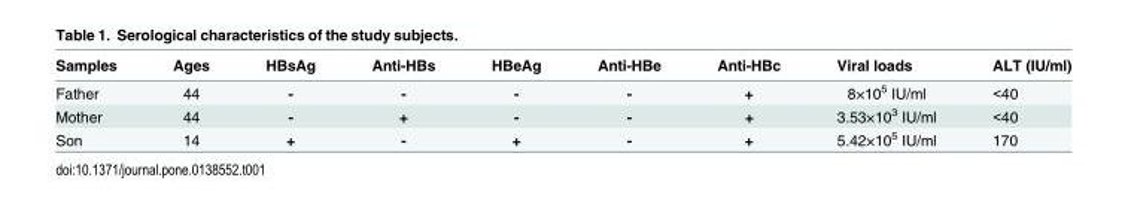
<table><thead><tr><td>Samples</td><td>Ages</td><td>HBsAg</td><td>Anti-HBs</td><td>HBeAg</td><td>Anti-HBe</td><td>Anti-HBc</td><td>Viral loads</td><td>ALT (IU/ml)</td></tr></thead><tbody><tr><td>Father</td><td>44</td><td>-</td><td>-</td><td>-</td><td>-</td><td>+</td><td>8×10<sup>5</sup> IU/ml</td><td>&lt;40</td></tr><tr><td>Mother</td><td>44</td><td>-</td><td>+</td><td>-</td><td>-</td><td>+</td><td>3.53×10<sup>3</sup> IU/ml</td><td>&lt;40</td></tr><tr><td>Son</td><td>14</td><td>+</td><td>-</td><td>+</td><td>-</td><td>+</td><td>5.42×10<sup>5</sup> IU/ml</td><td>170</td></tr></tbody></table>